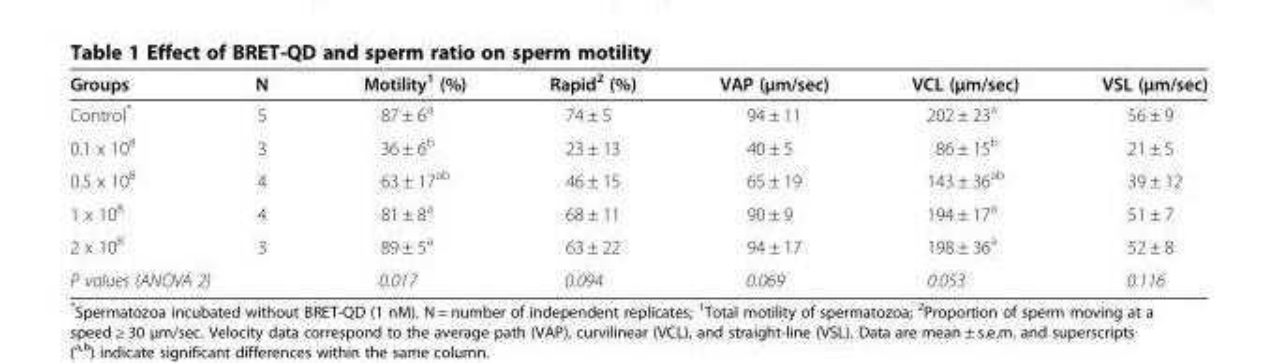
<table><thead><tr><td>Groups</td><td>N</td><td>Motility<sup>1</sup> (%)</td><td>Rapid<sup>2</sup> (%)</td><td>VAP (μm/sec)</td><td>VCL (μm/sec)</td><td>VSL (μm/sec)</td></tr></thead><tbody><tr><td>Control*</td><td>5</td><td>87 ± 6<sup>a</sup></td><td>74 ± 5</td><td>94 ± 11</td><td>202 ± 23<sup>a</sup></td><td>56 ± 9</td></tr><tr><td>0.1 x 10<sup>8</sup></td><td>3</td><td>36 ± 6<sup>b</sup></td><td>23 ± 13</td><td>40 ± 5</td><td>86 ± 15<sup>b</sup></td><td>21 ± 5</td></tr><tr><td>0.5 x 10<sup>8</sup></td><td>4</td><td>63 ± 17<sup>ab</sup></td><td>46 ± 15</td><td>65 ± 19</td><td>143 ± 36<sup>ab</sup></td><td>39 ± 12</td></tr><tr><td>1 x 10<sup>8</sup></td><td>4</td><td>81 ± 8<sup>a</sup></td><td>68 ± 11</td><td>90 ± 9</td><td>194 ± 17<sup>a</sup></td><td>51 ± 7</td></tr><tr><td>2 x 10<sup>8</sup></td><td>3</td><td>89 ± 5<sup>a</sup></td><td>63 ± 22</td><td>94 ± 17</td><td>198 ± 36<sup>a</sup></td><td>52 ± 8</td></tr><tr><td colspan="2">P values (ANOVA 2)</td><td>0.017</td><td>0.094</td><td>0.069</td><td>0.053</td><td>0.116</td></tr></tbody></table>